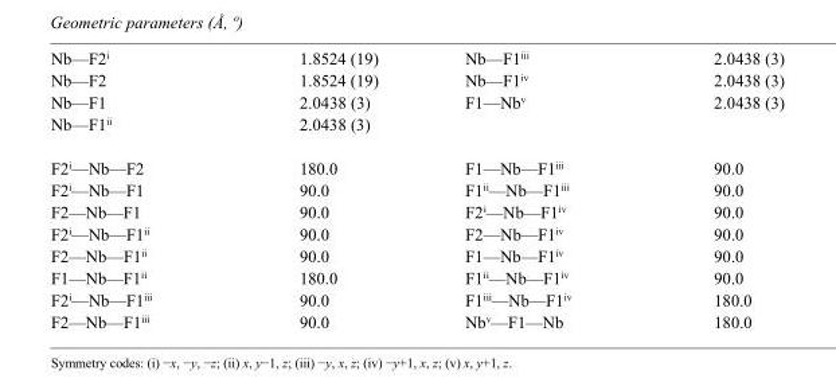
<table><tbody><tr><td>Nb—F2<sup>i</sup></td><td>1.8524 (19)</td><td>Nb—F1<sup>iii</sup></td><td>2.0438 (3)</td></tr><tr><td>Nb—F2</td><td>1.8524 (19)</td><td>Nb—F1<sup>iv</sup></td><td>2.0438 (3)</td></tr><tr><td>Nb—F1</td><td>2.0438 (3)</td><td>F1—Nb<sup>v</sup></td><td>2.0438 (3)</td></tr><tr><td>Nb—F1<sup>ii</sup></td><td>2.0438 (3)</td><td></td><td></td></tr><tr><td>F2<sup>i</sup>—Nb—F2</td><td>180.0</td><td>F1—Nb—F1<sup>iii</sup></td><td>90.0</td></tr><tr><td>F2<sup>i</sup>—Nb—F1</td><td>90.0</td><td>F1<sup>ii</sup>—Nb—F1<sup>iii</sup></td><td>90.0</td></tr><tr><td>F2—Nb—F1</td><td>90.0</td><td>F2<sup>i</sup>—Nb—F1<sup>iv</sup></td><td>90.0</td></tr><tr><td>F2<sup>i</sup>—Nb—F1<sup>ii</sup></td><td>90.0</td><td>F2—Nb—F1<sup>iv</sup></td><td>90.0</td></tr><tr><td>F2—Nb—F1<sup>ii</sup></td><td>90.0</td><td>F1—Nb—F1<sup>iv</sup></td><td>90.0</td></tr><tr><td>F1—Nb—F1<sup>ii</sup></td><td>180.0</td><td>F1<sup>ii</sup>—Nb—F1<sup>iv</sup></td><td>90.0</td></tr><tr><td>F2<sup>i</sup>—Nb—F1<sup>iii</sup></td><td>90.0</td><td>F1<sup>iii</sup>—Nb—F1<sup>iv</sup></td><td>180.0</td></tr><tr><td>F2—Nb—F1<sup>iii</sup></td><td>90.0</td><td>Nb<sup>v</sup>—F1—Nb</td><td>180.0</td></tr></tbody></table>